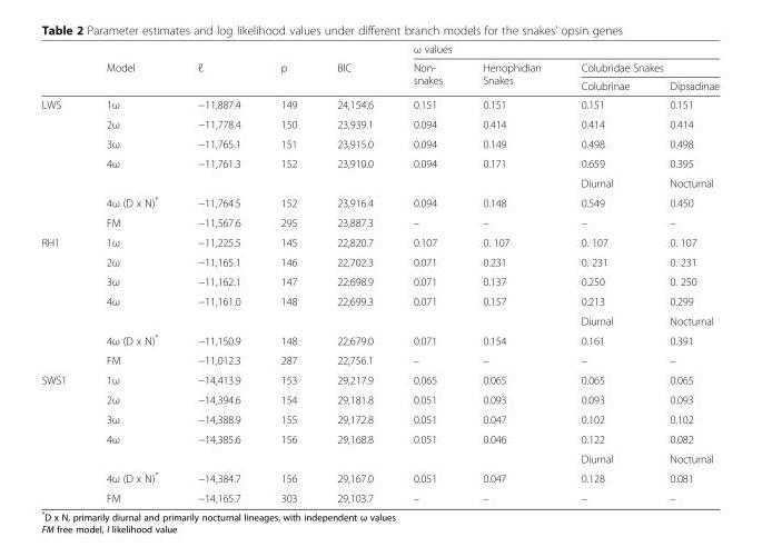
<table><thead><tr><td rowspan="3"></td><td rowspan="3">Model</td><td rowspan="3">ℓ</td><td rowspan="3">p</td><td rowspan="3">BIC</td><td colspan="4">ω values</td></tr><tr><td rowspan="2">Non- snakes</td><td rowspan="2">Henophidian Snakes</td><td colspan="2">Colubridae Snakes</td></tr><tr><td>Colubrinae</td><td>Dipsadinae</td></tr></thead><tbody><tr><td rowspan="7">LWS</td><td>1ω</td><td>−11,887.4</td><td>149</td><td>24,154.6</td><td>0.151</td><td>0.151</td><td>0.151</td><td>0.151</td></tr><tr><td>2ω</td><td>−11,778.4</td><td>150</td><td>23,939.1</td><td>0.094</td><td>0.414</td><td>0.414</td><td>0.414</td></tr><tr><td>3ω</td><td>−11,765.1</td><td>151</td><td>23,915.0</td><td>0.094</td><td>0.149</td><td>0.498</td><td>0.498</td></tr><tr><td>4ω</td><td>−11,761.3</td><td>152</td><td>23,910.0</td><td>0.094</td><td>0.171</td><td>0.659</td><td>0.395</td></tr><tr><td></td><td></td><td></td><td></td><td></td><td></td><td>Diurnal</td><td>Nocturnal</td></tr><tr><td>4ω (D x N)*</td><td>−11,764.5</td><td>152</td><td>23,916.4</td><td>0.094</td><td>0.148</td><td>0.549</td><td>0.450</td></tr><tr><td>FM</td><td>−11,567.6</td><td>295</td><td>23,887.3</td><td>–</td><td>–</td><td>–</td><td>–</td></tr><tr><td rowspan="7">RH1</td><td>1ω</td><td>−11,225.5</td><td>145</td><td>22,820.7</td><td>0.107</td><td>0. 107</td><td>0. 107</td><td>0. 107</td></tr><tr><td>2ω</td><td>−11,165.1</td><td>146</td><td>22,702.3</td><td>0.071</td><td>0.231</td><td>0. 231</td><td>0. 231</td></tr><tr><td>3ω</td><td>−11,162.1</td><td>147</td><td>22,698.9</td><td>0.071</td><td>0.137</td><td>0.250</td><td>0. 250</td></tr><tr><td>4ω</td><td>−11,161.0</td><td>148</td><td>22,699.3</td><td>0.071</td><td>0.157</td><td>0.213</td><td>0.299</td></tr><tr><td></td><td></td><td></td><td></td><td></td><td></td><td>Diurnal</td><td>Nocturnal</td></tr><tr><td>4ω (D x N)*</td><td>−11,150.9</td><td>148</td><td>22,679.0</td><td>0.071</td><td>0.154</td><td>0.161</td><td>0.391</td></tr><tr><td>FM</td><td>−11,012.3</td><td>287</td><td>22,756.1</td><td>–</td><td>–</td><td>–</td><td>–</td></tr><tr><td rowspan="7">SWS1</td><td>1ω</td><td>−14,413.9</td><td>153</td><td>29,217.9</td><td>0.065</td><td>0.065</td><td>0.065</td><td>0.065</td></tr><tr><td>2ω</td><td>−14,394.6</td><td>154</td><td>29,181.8</td><td>0.051</td><td>0.093</td><td>0.093</td><td>0.093</td></tr><tr><td>3ω</td><td>−14,388.9</td><td>155</td><td>29,172.8</td><td>0.051</td><td>0.047</td><td>0.102</td><td>0.102</td></tr><tr><td>4ω</td><td>−14,385.6</td><td>156</td><td>29,168.8</td><td>0.051</td><td>0.046</td><td>0.122</td><td>0.082</td></tr><tr><td></td><td></td><td></td><td></td><td></td><td></td><td>Diurnal</td><td>Nocturnal</td></tr><tr><td>4ω (D x N)*</td><td>−14,384.7</td><td>156</td><td>29,167.0</td><td>0.051</td><td>0.047</td><td>0.128</td><td>0.081</td></tr><tr><td>FM</td><td>−14,165.7</td><td>303</td><td>29,103.7</td><td>–</td><td>–</td><td>–</td><td>–</td></tr></tbody></table>